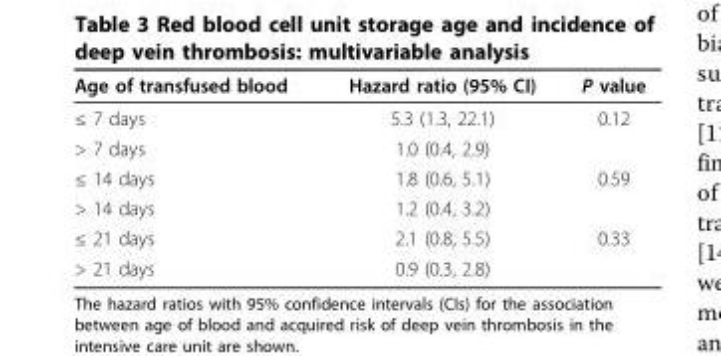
<table><thead><tr><td>Age of transfused blood</td><td>Hazard ratio (95% CI)</td><td>P value</td></tr></thead><tbody><tr><td>≤ 7 days</td><td>5.3 (1.3, 22.1)</td><td>0.12</td></tr><tr><td>&gt; 7 days</td><td>1.0 (0.4, 2.9)</td><td></td></tr><tr><td>≤ 14 days</td><td>1.8 (0.6, 5.1)</td><td>0.59</td></tr><tr><td>&gt; 14 days</td><td>1.2 (0.4, 3.2)</td><td></td></tr><tr><td>≤ 21 days</td><td>2.1 (0.8, 5.5)</td><td>0.33</td></tr><tr><td>&gt; 21 days</td><td>0.9 (0.3, 2.8)</td><td></td></tr></tbody></table>